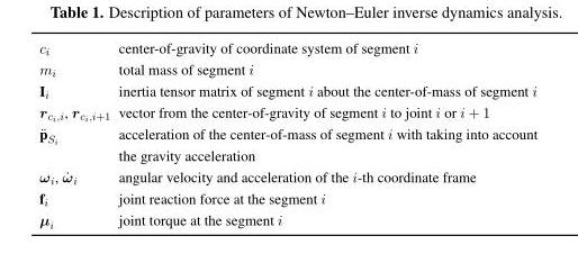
<table><tbody><tr><td>c<sub>i</sub></td><td>center-of-gravity of coordinate system of segment i</td></tr><tr><td>m<sub>i</sub></td><td>total mass of segment i</td></tr><tr><td>I<sub>i</sub></td><td>inertia tensor matrix of segment i about the center-of-mass of segment i</td></tr><tr><td>rci,i, rci,i+1</td><td>vector from the center-of-gravity of segment i to joint i or i + 1</td></tr><tr><td>¨pSi</td><td>acceleration of the center-of-mass of segment i with taking into account the gravity acceleration</td></tr><tr><td>ωi, ˙ωi</td><td>angular velocity and acceleration of the i-th coordinate frame</td></tr><tr><td>f<sub>i</sub></td><td>joint reaction force at the segment i</td></tr><tr><td>µ<sub>i</sub></td><td>joint torque at the segment i</td></tr></tbody></table>